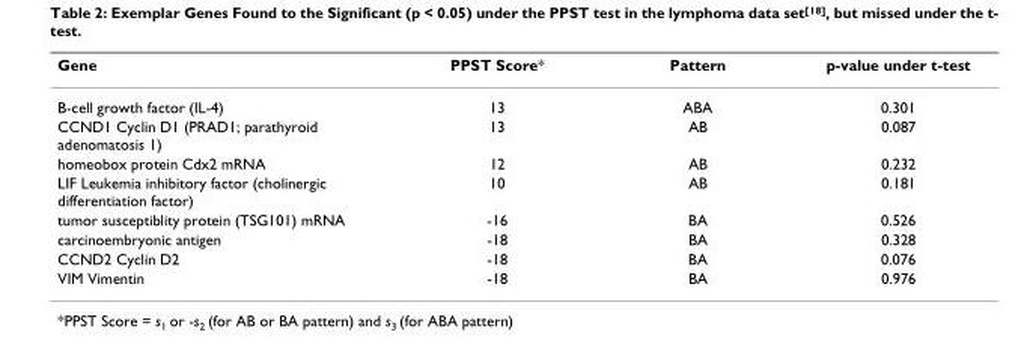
<table><thead><tr><td>Gene</td><td>PPST Score*</td><td>Pattern</td><td>p-value under t-test</td></tr></thead><tbody><tr><td>B-cell growth factor (IL-4)</td><td>13</td><td>ABA</td><td>0.301</td></tr><tr><td>CCND1 Cyclin D1 (PRAD1; parathyroid adenomatosis 1)</td><td>13</td><td>AB</td><td>0.087</td></tr><tr><td>homeobox protein Cdx2 mRNA</td><td>12</td><td>AB</td><td>0.232</td></tr><tr><td>LIF Leukemia inhibitory factor (cholinergic differentiation factor)</td><td>10</td><td>AB</td><td>0.181</td></tr><tr><td>tumor susceptiblity protein (TSG101) mRNA</td><td>-16</td><td>BA</td><td>0.526</td></tr><tr><td>carcinoembryonic antigen</td><td>-18</td><td>BA</td><td>0.328</td></tr><tr><td>CCND2 Cyclin D2</td><td>-18</td><td>BA</td><td>0.076</td></tr><tr><td>VIM Vimentin</td><td>-18</td><td>BA</td><td>0.976</td></tr></tbody></table>